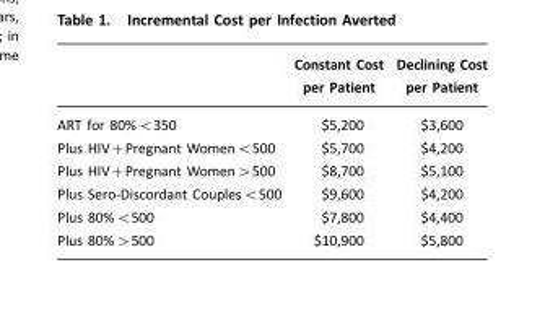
<table><thead><tr><td></td><td>Constant Cost per Patient</td><td>Declining Cost per Patient</td></tr></thead><tbody><tr><td>ART for 80%&lt;350</td><td>$5,200</td><td>$3,600</td></tr><tr><td>Plus HIV+Pregnant Women&lt;500</td><td>$5,700</td><td>$4,200</td></tr><tr><td>Plus HIV+Pregnant Women&gt;500</td><td>$8,700</td><td>$5,100</td></tr><tr><td>Plus Sero-Discordant Couples&lt;500</td><td>$9,600</td><td>$4,200</td></tr><tr><td>Plus 80%&lt;500</td><td>$7,800</td><td>$4,400</td></tr><tr><td>Plus 80%&gt;500</td><td>$10,900</td><td>$5,800</td></tr></tbody></table>